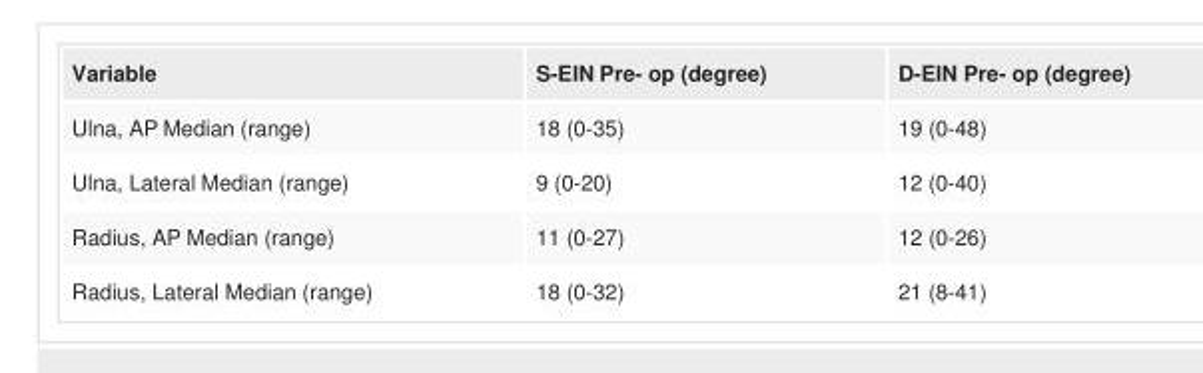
<table><tbody><tr><td>Variable</td><td>S-EIN Pre- op (degree)</td><td>D-EIN Pre- op (degree)</td></tr><tr><td>Ulna, AP Median (range)</td><td>18 (0-35)</td><td>19 (0-48)</td></tr><tr><td>Ulna, Lateral Median (range)</td><td>9 (0-20)</td><td>12 (0-40)</td></tr><tr><td>Radius, AP Median (range)</td><td>11 (0-27)</td><td>12 (0-26)</td></tr><tr><td>Radius, Lateral Median (range)</td><td>18 (0-32)</td><td>21 (8-41)</td></tr></tbody></table>